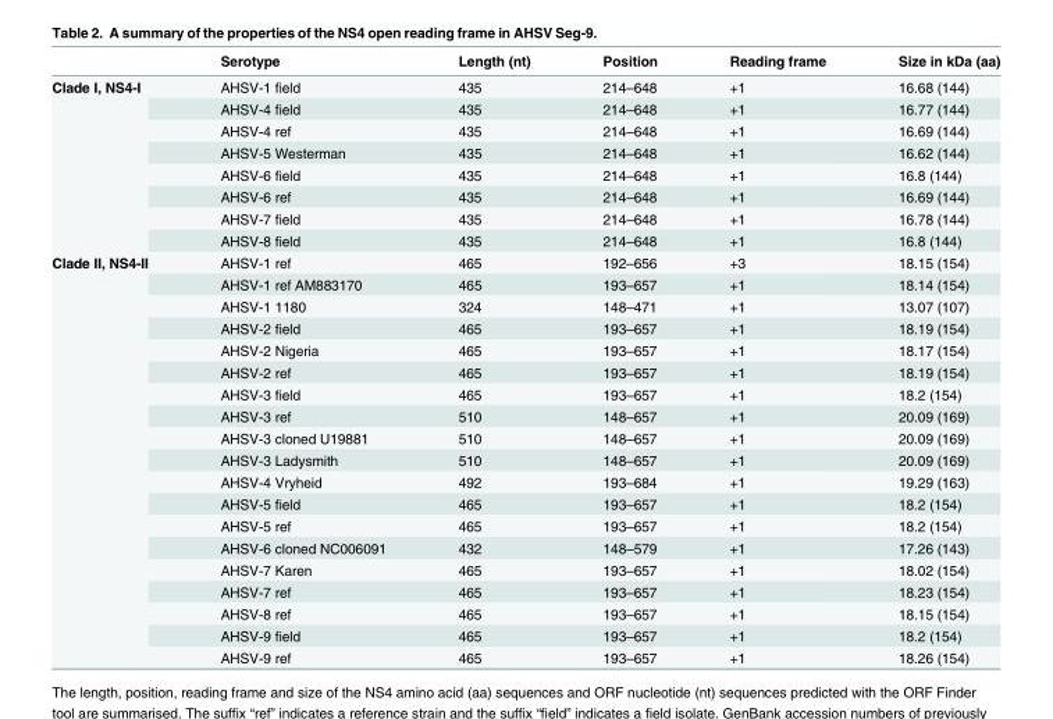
<table><thead><tr><td></td><td>Serotype</td><td>Length (nt)</td><td>Position</td><td>Reading frame</td><td>Size in kDa (aa)</td></tr></thead><tbody><tr><td rowspan="8">Clade I, NS4-I</td><td>AHSV-1 field</td><td>435</td><td>214–648</td><td>+1</td><td>16.68 (144)</td></tr><tr><td>AHSV-4 field</td><td>435</td><td>214–648</td><td>+1</td><td>16.77 (144)</td></tr><tr><td>AHSV-4 ref</td><td>435</td><td>214–648</td><td>+1</td><td>16.69 (144)</td></tr><tr><td>AHSV-5 Westerman</td><td>435</td><td>214–648</td><td>+1</td><td>16.62 (144)</td></tr><tr><td>AHSV-6 field</td><td>435</td><td>214–648</td><td>+1</td><td>16.8 (144)</td></tr><tr><td>AHSV-6 ref</td><td>435</td><td>214–648</td><td>+1</td><td>16.69 (144)</td></tr><tr><td>AHSV-7 field</td><td>435</td><td>214–648</td><td>+1</td><td>16.78 (144)</td></tr><tr><td>AHSV-8 field</td><td>435</td><td>214–648</td><td>+1</td><td>16.8 (144)</td></tr><tr><td rowspan="19">Clade II, NS4-II</td><td>AHSV-1 ref</td><td>465</td><td>192–656</td><td>+3</td><td>18.15 (154)</td></tr><tr><td>AHSV-1 ref AM883170</td><td>465</td><td>193–657</td><td>+1</td><td>18.14 (154)</td></tr><tr><td>AHSV-1 1180</td><td>324</td><td>148–471</td><td>+1</td><td>13.07 (107)</td></tr><tr><td>AHSV-2 field</td><td>465</td><td>193–657</td><td>+1</td><td>18.19 (154)</td></tr><tr><td>AHSV-2 Nigeria</td><td>465</td><td>193–657</td><td>+1</td><td>18.17 (154)</td></tr><tr><td>AHSV-2 ref</td><td>465</td><td>193–657</td><td>+1</td><td>18.19 (154)</td></tr><tr><td>AHSV-3 field</td><td>465</td><td>193–657</td><td>+1</td><td>18.2 (154)</td></tr><tr><td>AHSV-3 ref</td><td>510</td><td>148–657</td><td>+1</td><td>20.09 (169)</td></tr><tr><td>AHSV-3 cloned U19881</td><td>510</td><td>148–657</td><td>+1</td><td>20.09 (169)</td></tr><tr><td>AHSV-3 Ladysmith</td><td>510</td><td>148–657</td><td>+1</td><td>20.09 (169)</td></tr><tr><td>AHSV-4 Vryheid</td><td>492</td><td>193–684</td><td>+1</td><td>19.29 (163)</td></tr><tr><td>AHSV-5 field</td><td>465</td><td>193–657</td><td>+1</td><td>18.2 (154)</td></tr><tr><td>AHSV-5 ref</td><td>465</td><td>193–657</td><td>+1</td><td>18.2 (154)</td></tr><tr><td>AHSV-6 cloned NC006091</td><td>432</td><td>148–579</td><td>+1</td><td>17.26 (143)</td></tr><tr><td>AHSV-7 Karen</td><td>465</td><td>193–657</td><td>+1</td><td>18.02 (154)</td></tr><tr><td>AHSV-7 ref</td><td>465</td><td>193–657</td><td>+1</td><td>18.23 (154)</td></tr><tr><td>AHSV-8 ref</td><td>465</td><td>193–657</td><td>+1</td><td>18.15 (154)</td></tr><tr><td>AHSV-9 field</td><td>465</td><td>193–657</td><td>+1</td><td>18.2 (154)</td></tr><tr><td>AHSV-9 ref</td><td>465</td><td>193–657</td><td>+1</td><td>18.26 (154)</td></tr></tbody></table>